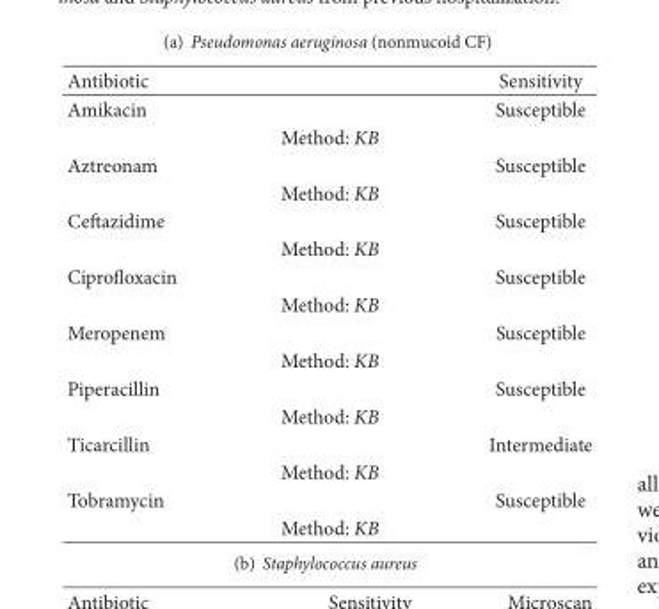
<table><thead><tr><td>Antibiotic</td><td>Sensitivity</td></tr></thead><tbody><tr><td>Amikacin</td><td>Susceptible</td></tr><tr><td colspan="2">Method: KB</td></tr><tr><td>Aztreonam</td><td>Susceptible</td></tr><tr><td colspan="2">Method: KB</td></tr><tr><td>Ceftazidime</td><td>Susceptible</td></tr><tr><td colspan="2">Method: KB</td></tr><tr><td>Ciprofloxacin</td><td>Susceptible</td></tr><tr><td colspan="2">Method: KB</td></tr><tr><td>Meropenem</td><td>Susceptible</td></tr><tr><td colspan="2">Method: KB</td></tr><tr><td>Piperacillin</td><td>Susceptible</td></tr><tr><td colspan="2">Method: KB</td></tr><tr><td>Ticarcillin</td><td>Intermediate</td></tr><tr><td colspan="2">Method: KB</td></tr><tr><td>Tobramycin</td><td>Susceptible</td></tr><tr><td colspan="2">Method: KB</td></tr></tbody></table>